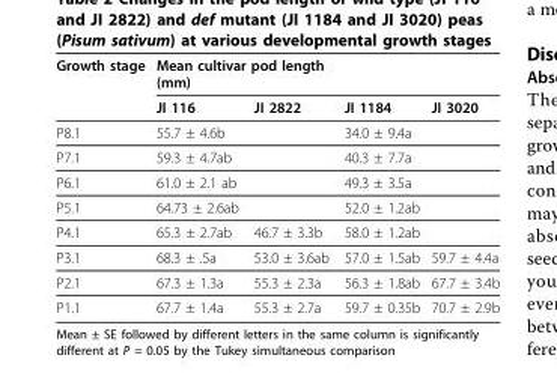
<table><thead><tr><td rowspan="2">Growth stage</td><td colspan="2">Mean cultivar pod length (mm)</td><td rowspan="2">JI 1184</td><td rowspan="2">JI 3020</td></tr><tr><td>JI 116</td><td>JI 2822</td></tr></thead><tbody><tr><td>P8.1</td><td>55.7 ± 4.6b</td><td></td><td>34.0 ± 9.4a</td><td></td></tr><tr><td>P7.1</td><td>59.3 ± 4.7ab</td><td></td><td>40.3 ± 7.7a</td><td></td></tr><tr><td>P6.1</td><td>61.0 ± 2.1 ab</td><td></td><td>49.3 ± 3.5a</td><td></td></tr><tr><td>P5.1</td><td>64.73 ± 2.6ab</td><td></td><td>52.0 ± 1.2ab</td><td></td></tr><tr><td>P4.1</td><td>65.3 ± 2.7ab</td><td>46.7 ± 3.3b</td><td>58.0 ± 1.2ab</td><td></td></tr><tr><td>P3.1</td><td>68.3 ± .5a</td><td>53.0 ± 3.6ab</td><td>57.0 ± 1.5ab</td><td>59.7 ± 4.4a</td></tr><tr><td>P2.1</td><td>67.3 ± 1.3a</td><td>55.3 ± 2.3a</td><td>56.3 ± 1.8ab</td><td>67.7 ± 3.4b</td></tr><tr><td>P1.1</td><td>67.7 ± 1.4a</td><td>55.3 ± 2.7a</td><td>59.7 ± 0.35b</td><td>70.7 ± 2.9b</td></tr></tbody></table>